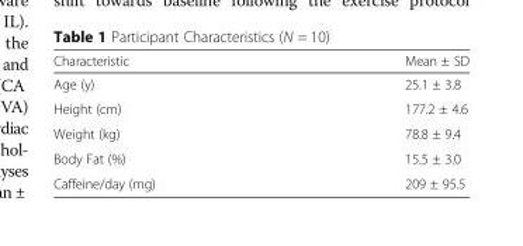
<table><thead><tr><td>Characteristic</td><td>Mean ± SD</td></tr></thead><tbody><tr><td>Age (y)</td><td>25.1 ± 3.8</td></tr><tr><td>Height (cm)</td><td>177.2 ± 4.6</td></tr><tr><td>Weight (kg)</td><td>78.8 ± 9.4</td></tr><tr><td>Body Fat (%)</td><td>15.5 ± 3.0</td></tr><tr><td>Caffeine/day (mg)</td><td>209 ± 95.5</td></tr></tbody></table>